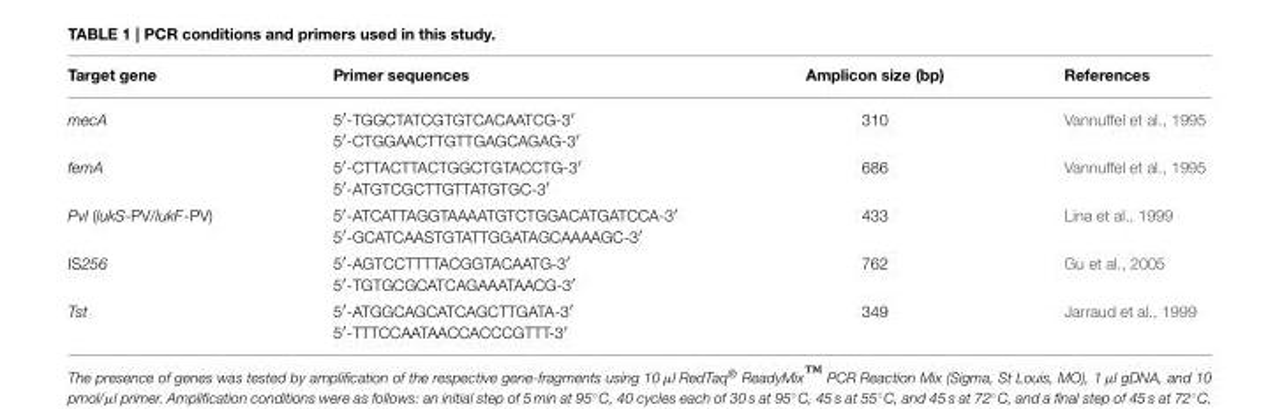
<table><thead><tr><td>Target gene</td><td>Primer sequences</td><td>Amplicon size (bp)</td><td>References</td></tr></thead><tbody><tr><td>mecA</td><td>5′-TGGCTATCGTGTCACAATCG-3′ 5′-CTGGAACTTGTTGAGCAGAG-3′</td><td>310</td><td>Vannuffel et al., 1995</td></tr><tr><td>femA</td><td>5′-CTTACTTACTGGCTGTACCTG-3′ 5′-ATGTCGCTTGTTATGTGC-3′</td><td>686</td><td>Vannuffel et al., 1995</td></tr><tr><td>Pvl (lukS-PV/lukF-PV)</td><td>5′-ATCATTAGGTAAAATGTCTGGACATGATCCA-3′ 5′-GCATCAASTGTATTGGATAGCAAAAGC-3′</td><td>433</td><td>Lina et al., 1999</td></tr><tr><td>IS256</td><td>5′-AGTCCTTTTACGGTACAATG-3′ 5′-TGTGCGCATCAGAAATAACG-3′</td><td>762</td><td>Gu et al., 2005</td></tr><tr><td>Tst</td><td>5′-ATGGCAGCATCAGCTTGATA-3′ 5′-TTTCCAATAACCACCCGTTT-3′</td><td>349</td><td>Jarraud et al., 1999</td></tr></tbody></table>